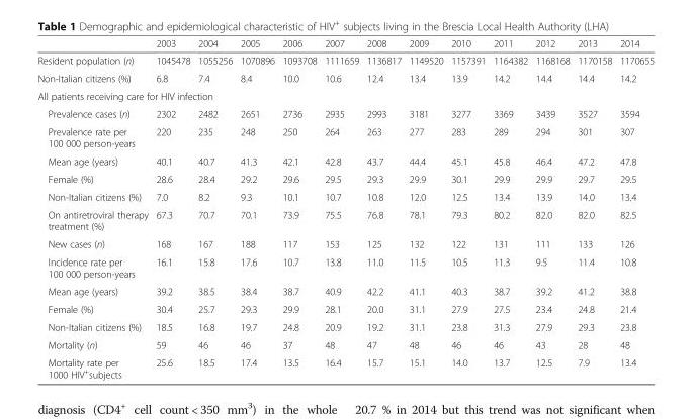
<table><thead><tr><td></td><td>2003</td><td>2004</td><td>2005</td><td>2006</td><td>2007</td><td>2008</td><td>2009</td><td>2010</td><td>2011</td><td>2012</td><td>2013</td><td>2014</td></tr></thead><tbody><tr><td>Resident population (n)</td><td>1045478</td><td>1055256</td><td>1070896</td><td>1093708</td><td>1111659</td><td>1136817</td><td>1149520</td><td>1157391</td><td>1164382</td><td>1168168</td><td>1170158</td><td>1170655</td></tr><tr><td>Non-Italian citizens (%)</td><td>6.8</td><td>7.4</td><td>8.4</td><td>10.0</td><td>10.6</td><td>12.4</td><td>13.4</td><td>13.9</td><td>14.2</td><td>14.4</td><td>14.4</td><td>14.2</td></tr><tr><td colspan="13">All patients receiving care for HIV infection</td></tr><tr><td>Prevalence cases (n)</td><td>2302</td><td>2482</td><td>2651</td><td>2736</td><td>2935</td><td>2993</td><td>3181</td><td>3277</td><td>3369</td><td>3439</td><td>3527</td><td>3594</td></tr><tr><td>Prevalence rate per 100 000 person-years</td><td>220</td><td>235</td><td>248</td><td>250</td><td>264</td><td>263</td><td>277</td><td>283</td><td>289</td><td>294</td><td>301</td><td>307</td></tr><tr><td>Mean age (years)</td><td>40.1</td><td>40.7</td><td>41.3</td><td>42.1</td><td>42.8</td><td>43.7</td><td>44.4</td><td>45.1</td><td>45.8</td><td>46.4</td><td>47.2</td><td>47.8</td></tr><tr><td>Female (%)</td><td>28.6</td><td>28.4</td><td>29.2</td><td>29.6</td><td>29.5</td><td>29.3</td><td>29.9</td><td>30.1</td><td>29.9</td><td>29.9</td><td>29.7</td><td>29.5</td></tr><tr><td>Non-Italian citizens (%)</td><td>7.0</td><td>8.2</td><td>9.3</td><td>10.1</td><td>10.7</td><td>10.8</td><td>12.0</td><td>12.5</td><td>13.4</td><td>13.9</td><td>14.0</td><td>13.4</td></tr><tr><td>On antiretroviral therapy treatment (%)</td><td>67.3</td><td>70.7</td><td>70.1</td><td>73.9</td><td>75.5</td><td>76.8</td><td>78.1</td><td>79.3</td><td>80.2</td><td>82.0</td><td>82.0</td><td>82.5</td></tr><tr><td>New cases (n)</td><td>168</td><td>167</td><td>188</td><td>117</td><td>153</td><td>125</td><td>132</td><td>122</td><td>131</td><td>111</td><td>133</td><td>126</td></tr><tr><td>Incidence rate per 100 000 person-years</td><td>16.1</td><td>15.8</td><td>17.6</td><td>10.7</td><td>13.8</td><td>11.0</td><td>11.5</td><td>10.5</td><td>11.3</td><td>9.5</td><td>11.4</td><td>10.8</td></tr><tr><td>Mean age (years)</td><td>39.2</td><td>38.5</td><td>38.4</td><td>38.7</td><td>40.9</td><td>42.2</td><td>41.1</td><td>40.3</td><td>38.7</td><td>39.2</td><td>41.2</td><td>38.8</td></tr><tr><td>Female (%)</td><td>30.4</td><td>25.7</td><td>29.3</td><td>29.9</td><td>28.1</td><td>20.0</td><td>31.1</td><td>27.9</td><td>27.5</td><td>23.4</td><td>24.8</td><td>21.4</td></tr><tr><td>Non-Italian citizens (%)</td><td>18.5</td><td>16.8</td><td>19.7</td><td>24.8</td><td>20.9</td><td>19.2</td><td>31.1</td><td>23.8</td><td>31.3</td><td>27.9</td><td>29.3</td><td>23.8</td></tr><tr><td>Mortality (n)</td><td>59</td><td>46</td><td>46</td><td>37</td><td>48</td><td>47</td><td>48</td><td>46</td><td>46</td><td>43</td><td>28</td><td>48</td></tr><tr><td>Mortality rate per 1000 HIV<sup>+</sup>subjects</td><td>25.6</td><td>18.5</td><td>17.4</td><td>13.5</td><td>16.4</td><td>15.7</td><td>15.1</td><td>14.0</td><td>13.7</td><td>12.5</td><td>7.9</td><td>13.4</td></tr></tbody></table>